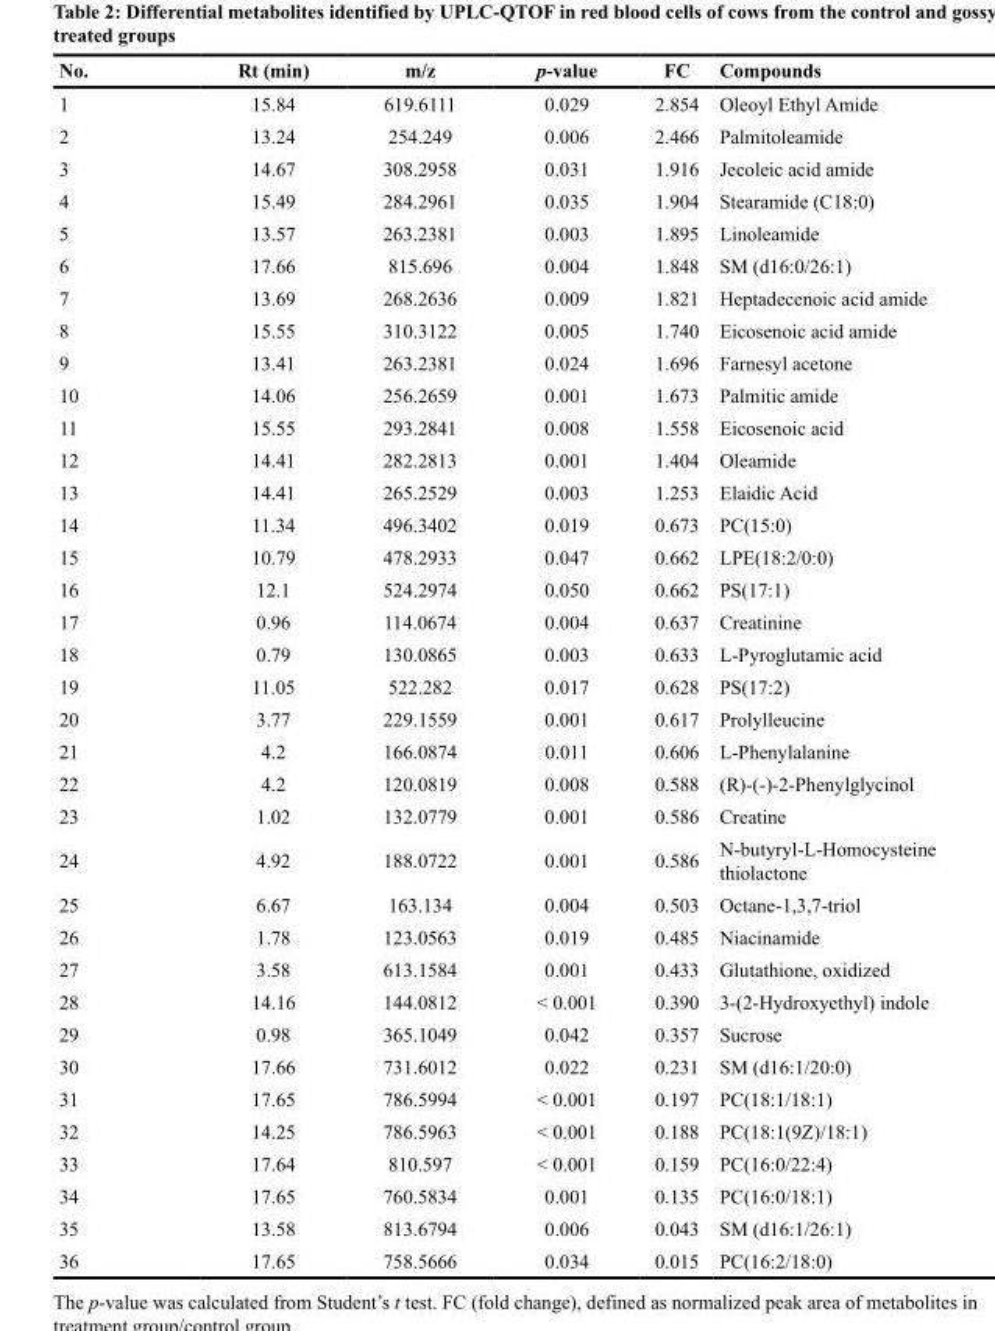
<table><thead><tr><td>No.</td><td>Rt (min)</td><td>m/z</td><td>p-value</td><td>FC</td><td>Compounds</td></tr></thead><tbody><tr><td>1</td><td>15.84</td><td>619.6111</td><td>0.029</td><td>2.854</td><td>Oleoyl Ethyl Amide</td></tr><tr><td>2</td><td>13.24</td><td>254.249</td><td>0.006</td><td>2.466</td><td>Palmitoleamide</td></tr><tr><td>3</td><td>14.67</td><td>308.2958</td><td>0.031</td><td>1.916</td><td>Jecoleic acid amide</td></tr><tr><td>4</td><td>15.49</td><td>284.2961</td><td>0.035</td><td>1.904</td><td>Stearamide (C18:0)</td></tr><tr><td>5</td><td>13.57</td><td>263.2381</td><td>0.003</td><td>1.895</td><td>Linoleamide</td></tr><tr><td>6</td><td>17.66</td><td>815.696</td><td>0.004</td><td>1.848</td><td>SM (d16:0/26:1)</td></tr><tr><td>7</td><td>13.69</td><td>268.2636</td><td>0.009</td><td>1.821</td><td>Heptadecenoic acid amide</td></tr><tr><td>8</td><td>15.55</td><td>310.3122</td><td>0.005</td><td>1.740</td><td>Eicosenoic acid amide</td></tr><tr><td>9</td><td>13.41</td><td>263.2381</td><td>0.024</td><td>1.696</td><td>Farnesyl acetone</td></tr><tr><td>10</td><td>14.06</td><td>256.2659</td><td>0.001</td><td>1.673</td><td>Palmitic amide</td></tr><tr><td>11</td><td>15.55</td><td>293.2841</td><td>0.008</td><td>1.558</td><td>Eicosenoic acid</td></tr><tr><td>12</td><td>14.41</td><td>282.2813</td><td>0.001</td><td>1.404</td><td>Oleamide</td></tr><tr><td>13</td><td>14.41</td><td>265.2529</td><td>0.003</td><td>1.253</td><td>Elaidic Acid</td></tr><tr><td>14</td><td>11.34</td><td>496.3402</td><td>0.019</td><td>0.673</td><td>PC(15:0)</td></tr><tr><td>15</td><td>10.79</td><td>478.2933</td><td>0.047</td><td>0.662</td><td>LPE(18:2/0:0)</td></tr><tr><td>16</td><td>12.1</td><td>524.2974</td><td>0.050</td><td>0.662</td><td>PS(17:1)</td></tr><tr><td>17</td><td>0.96</td><td>114.0674</td><td>0.004</td><td>0.637</td><td>Creatinine</td></tr><tr><td>18</td><td>0.79</td><td>130.0865</td><td>0.003</td><td>0.633</td><td>L-Pyroglutamic acid</td></tr><tr><td>19</td><td>11.05</td><td>522.282</td><td>0.017</td><td>0.628</td><td>PS(17:2)</td></tr><tr><td>20</td><td>3.77</td><td>229.1559</td><td>0.001</td><td>0.617</td><td>Prolylleucine</td></tr><tr><td>21</td><td>4.2</td><td>166.0874</td><td>0.011</td><td>0.606</td><td>L-Phenylalanine</td></tr><tr><td>22</td><td>4.2</td><td>120.0819</td><td>0.008</td><td>0.588</td><td>(R)-(-)-2-Phenylglycinol</td></tr><tr><td>23</td><td>1.02</td><td>132.0779</td><td>0.001</td><td>0.586</td><td>Creatine</td></tr><tr><td>24</td><td>4.92</td><td>188.0722</td><td>0.001</td><td>0.586</td><td>N-butyryl-L-Homocysteine thiolactone</td></tr><tr><td>25</td><td>6.67</td><td>163.134</td><td>0.004</td><td>0.503</td><td>Octane-1,3,7-triol</td></tr><tr><td>26</td><td>1.78</td><td>123.0563</td><td>0.019</td><td>0.485</td><td>Niacinamide</td></tr><tr><td>27</td><td>3.58</td><td>613.1584</td><td>0.001</td><td>0.433</td><td>Glutathione, oxidized</td></tr><tr><td>28</td><td>14.16</td><td>144.0812</td><td>&lt; 0.001</td><td>0.390</td><td>3-(2-Hydroxyethyl) indole</td></tr><tr><td>29</td><td>0.98</td><td>365.1049</td><td>0.042</td><td>0.357</td><td>Sucrose</td></tr><tr><td>30</td><td>17.66</td><td>731.6012</td><td>0.022</td><td>0.231</td><td>SM (d16:1/20:0)</td></tr><tr><td>31</td><td>17.65</td><td>786.5994</td><td>&lt; 0.001</td><td>0.197</td><td>PC(18:1/18:1)</td></tr><tr><td>32</td><td>14.25</td><td>786.5963</td><td>&lt; 0.001</td><td>0.188</td><td>PC(18:1(9Z)/18:1)</td></tr><tr><td>33</td><td>17.64</td><td>810.597</td><td>&lt; 0.001</td><td>0.159</td><td>PC(16:0/22:4)</td></tr><tr><td>34</td><td>17.65</td><td>760.5834</td><td>0.001</td><td>0.135</td><td>PC(16:0/18:1)</td></tr><tr><td>35</td><td>13.58</td><td>813.6794</td><td>0.006</td><td>0.043</td><td>SM (d16:1/26:1)</td></tr><tr><td>36</td><td>17.65</td><td>758.5666</td><td>0.034</td><td>0.015</td><td>PC(16:2/18:0)</td></tr></tbody></table>